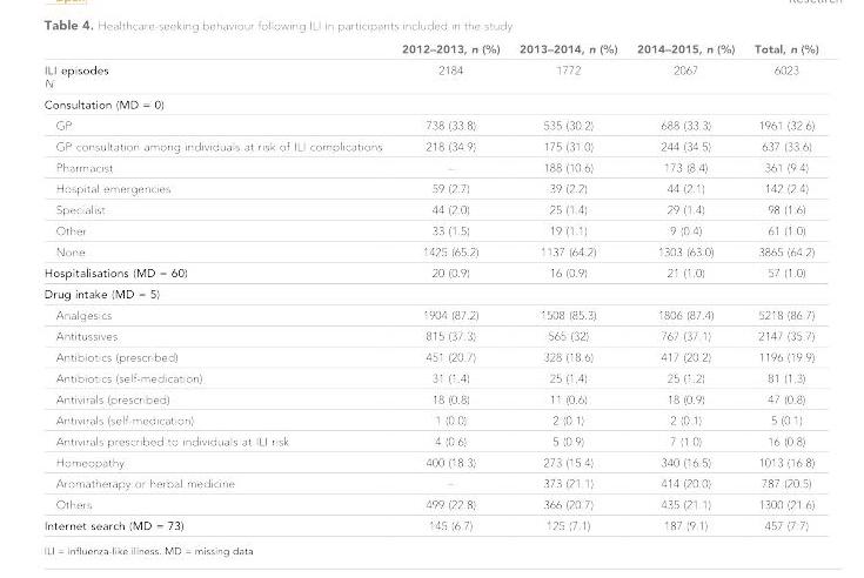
<table><thead><tr><td></td><td>2012–2013, n (%)</td><td>2013–2014, n (%)</td><td>2014–2015, n (%)</td><td>Total, n (%)</td></tr></thead><tbody><tr><td>ILI episodes N</td><td>2184</td><td>1772</td><td>2067</td><td>6023</td></tr><tr><td colspan="5">Consultation (MD = 0)</td></tr><tr><td>GP</td><td>738 (33.8)</td><td>535 (30.2)</td><td>688 (33.3)</td><td>1961 (32.6)</td></tr><tr><td>GP consultation among individuals at risk of ILI complications</td><td>218 (34.9)</td><td>175 (31.0)</td><td>244 (34.5)</td><td>637 (33.6)</td></tr><tr><td>Pharmacist</td><td>–</td><td>188 (10.6)</td><td>173 (8.4)</td><td>361 (9.4)</td></tr><tr><td>Hospital emergencies</td><td>59 (2.7)</td><td>39 (2.2)</td><td>44 (2.1)</td><td>142 (2.4)</td></tr><tr><td>Specialist</td><td>44 (2.0)</td><td>25 (1.4)</td><td>29 (1.4)</td><td>98 (1.6)</td></tr><tr><td>Other</td><td>33 (1.5)</td><td>19 (1.1)</td><td>9 (0.4)</td><td>61 (1.0)</td></tr><tr><td>None</td><td>1425 (65.2)</td><td>1137 (64.2)</td><td>1303 (63.0)</td><td>3865 (64.2)</td></tr><tr><td>Hospitalisations (MD = 60)</td><td>20 (0.9)</td><td>16 (0.9)</td><td>21 (1.0)</td><td>57 (1.0)</td></tr><tr><td colspan="5">Drug intake (MD = 5)</td></tr><tr><td>Analgesics</td><td>1904 (87.2)</td><td>1508 (85.3)</td><td>1806 (87.4)</td><td>5218 (86.7)</td></tr><tr><td>Antitussives</td><td>815 (37.3)</td><td>565 (32)</td><td>767 (37.1)</td><td>2147 (35.7)</td></tr><tr><td>Antibiotics (prescribed)</td><td>451 (20.7)</td><td>328 (18.6)</td><td>417 (20.2)</td><td>1196 (19.9)</td></tr><tr><td>Antibiotics (self-medication)</td><td>31 (1.4)</td><td>25 (1.4)</td><td>25 (1.2)</td><td>81 (1.3)</td></tr><tr><td>Antivirals (prescribed)</td><td>18 (0.8)</td><td>11 (0.6)</td><td>18 (0.9)</td><td>47 (0.8)</td></tr><tr><td>Antivirals (self-medication)</td><td>1 (0.0)</td><td>2 (0.1)</td><td>2 (0.1)</td><td>5 (0.1)</td></tr><tr><td>Antivirals prescribed to individuals at ILI risk</td><td>4 (0.6)</td><td>5 (0.9)</td><td>7 (1.0)</td><td>16 (0.8)</td></tr><tr><td>Homeopathy</td><td>400 (18.3)</td><td>273 (15.4)</td><td>340 (16.5)</td><td>1013 (16.8)</td></tr><tr><td>Aromatherapy or herbal medicine</td><td>–</td><td>373 (21.1)</td><td>414 (20.0)</td><td>787 (20.5)</td></tr><tr><td>Others</td><td>499 (22.8)</td><td>366 (20.7)</td><td>435 (21.1)</td><td>1300 (21.6)</td></tr><tr><td>Internet search (MD = 73)</td><td>145 (6.7)</td><td>125 (7.1)</td><td>187 (9.1)</td><td>457 (7.7)</td></tr></tbody></table>